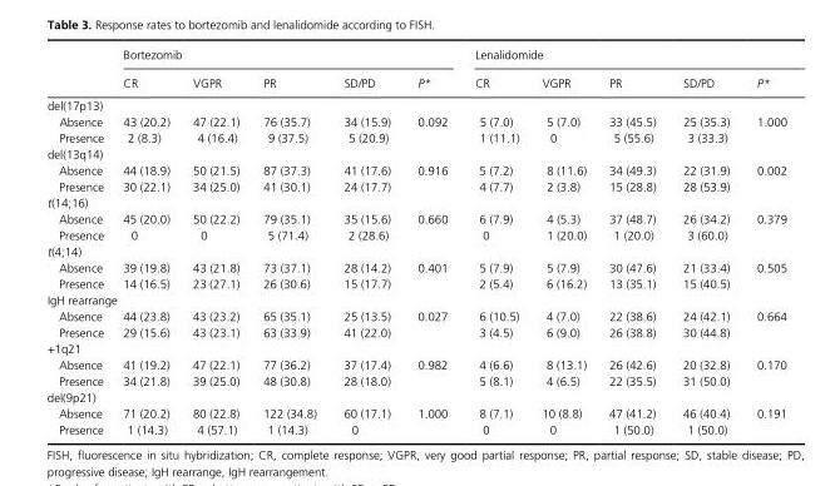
<table><thead><tr><td rowspan="2"></td><td colspan="5">Bortezomib</td><td colspan="5">Lenalidomide</td></tr><tr><td>CR</td><td>VGPR</td><td>PR</td><td>SD/PD</td><td>P*</td><td>CR</td><td>VGPR</td><td>PR</td><td>SD/PD</td><td>P*</td></tr></thead><tbody><tr><td colspan="11">del(17p13)</td></tr><tr><td>Absence</td><td>43 (20.2)</td><td>47 (22.1)</td><td>76 (35.7)</td><td>34 (15.9)</td><td>0.092</td><td>5 (7.0)</td><td>5 (7.0)</td><td>33 (45.5)</td><td>25 (35.3)</td><td>1.000</td></tr><tr><td>Presence</td><td>2 (8.3)</td><td>4 (16.4)</td><td>9 (37.5)</td><td>5 (20.9)</td><td></td><td>1 (11.1)</td><td>0</td><td>5 (55.6)</td><td>3 (33.3)</td><td></td></tr><tr><td colspan="11">del(13q14)</td></tr><tr><td>Absence</td><td>44 (18.9)</td><td>50 (21.5)</td><td>87 (37.3)</td><td>41 (17.6)</td><td>0.916</td><td>5 (7.2)</td><td>8 (11.6)</td><td>34 (49.3)</td><td>22 (31.9)</td><td>0.002</td></tr><tr><td>Presence</td><td>30 (22.1)</td><td>34 (25.0)</td><td>41 (30.1)</td><td>24 (17.7)</td><td></td><td>4 (7.7)</td><td>2 (3.8)</td><td>15 (28.8)</td><td>28 (53.9)</td><td></td></tr><tr><td colspan="11">t(14;16)</td></tr><tr><td>Absence</td><td>45 (20.0)</td><td>50 (22.2)</td><td>79 (35.1)</td><td>35 (15.6)</td><td>0.660</td><td>6 (7.9)</td><td>4 (5.3)</td><td>37 (48.7)</td><td>26 (34.2)</td><td>0.379</td></tr><tr><td>Presence</td><td>0</td><td>0</td><td>5 (71.4)</td><td>2 (28.6)</td><td></td><td>0</td><td>1 (20.0)</td><td>1 (20.0)</td><td>3 (60.0)</td><td></td></tr><tr><td colspan="11">t(4;14)</td></tr><tr><td>Absence</td><td>39 (19.8)</td><td>43 (21.8)</td><td>73 (37.1)</td><td>28 (14.2)</td><td>0.401</td><td>5 (7.9)</td><td>5 (7.9)</td><td>30 (47.6)</td><td>21 (33.4)</td><td>0.505</td></tr><tr><td>Presence</td><td>14 (16.5)</td><td>23 (27.1)</td><td>26 (30.6)</td><td>15 (17.7)</td><td></td><td>2 (5.4)</td><td>6 (16.2)</td><td>13 (35.1)</td><td>15 (40.5)</td><td></td></tr><tr><td colspan="11">IgH rearrange</td></tr><tr><td>Absence</td><td>44 (23.8)</td><td>43 (23.2)</td><td>65 (35.1)</td><td>25 (13.5)</td><td>0.027</td><td>6 (10.5)</td><td>4 (7.0)</td><td>22 (38.6)</td><td>24 (42.1)</td><td>0.664</td></tr><tr><td>Presence</td><td>29 (15.6)</td><td>43 (23.1)</td><td>63 (33.9)</td><td>41 (22.0)</td><td></td><td>3 (4.5)</td><td>6 (9.0)</td><td>26 (38.8)</td><td>30 (44.8)</td><td></td></tr><tr><td colspan="11">+1q21</td></tr><tr><td>Absence</td><td>41 (19.2)</td><td>47 (22.1)</td><td>77 (36.2)</td><td>37 (17.4)</td><td>0.982</td><td>4 (6.6)</td><td>8 (13.1)</td><td>26 (42.6)</td><td>20 (32.8)</td><td>0.170</td></tr><tr><td>Presence</td><td>34 (21.8)</td><td>39 (25.0)</td><td>48 (30.8)</td><td>28 (18.0)</td><td></td><td>5 (8.1)</td><td>4 (6.5)</td><td>22 (35.5)</td><td>31 (50.0)</td><td></td></tr><tr><td colspan="11">del(9p21)</td></tr><tr><td>Absence</td><td>71 (20.2)</td><td>80 (22.8)</td><td>122 (34.8)</td><td>60 (17.1)</td><td>1.000</td><td>8 (7.1)</td><td>10 (8.8)</td><td>47 (41.2)</td><td>46 (40.4)</td><td>0.191</td></tr><tr><td>Presence</td><td>1 (14.3)</td><td>4 (57.1)</td><td>1 (14.3)</td><td>0</td><td></td><td>0</td><td>0</td><td>1 (50.0)</td><td>1 (50.0)</td><td></td></tr></tbody></table>